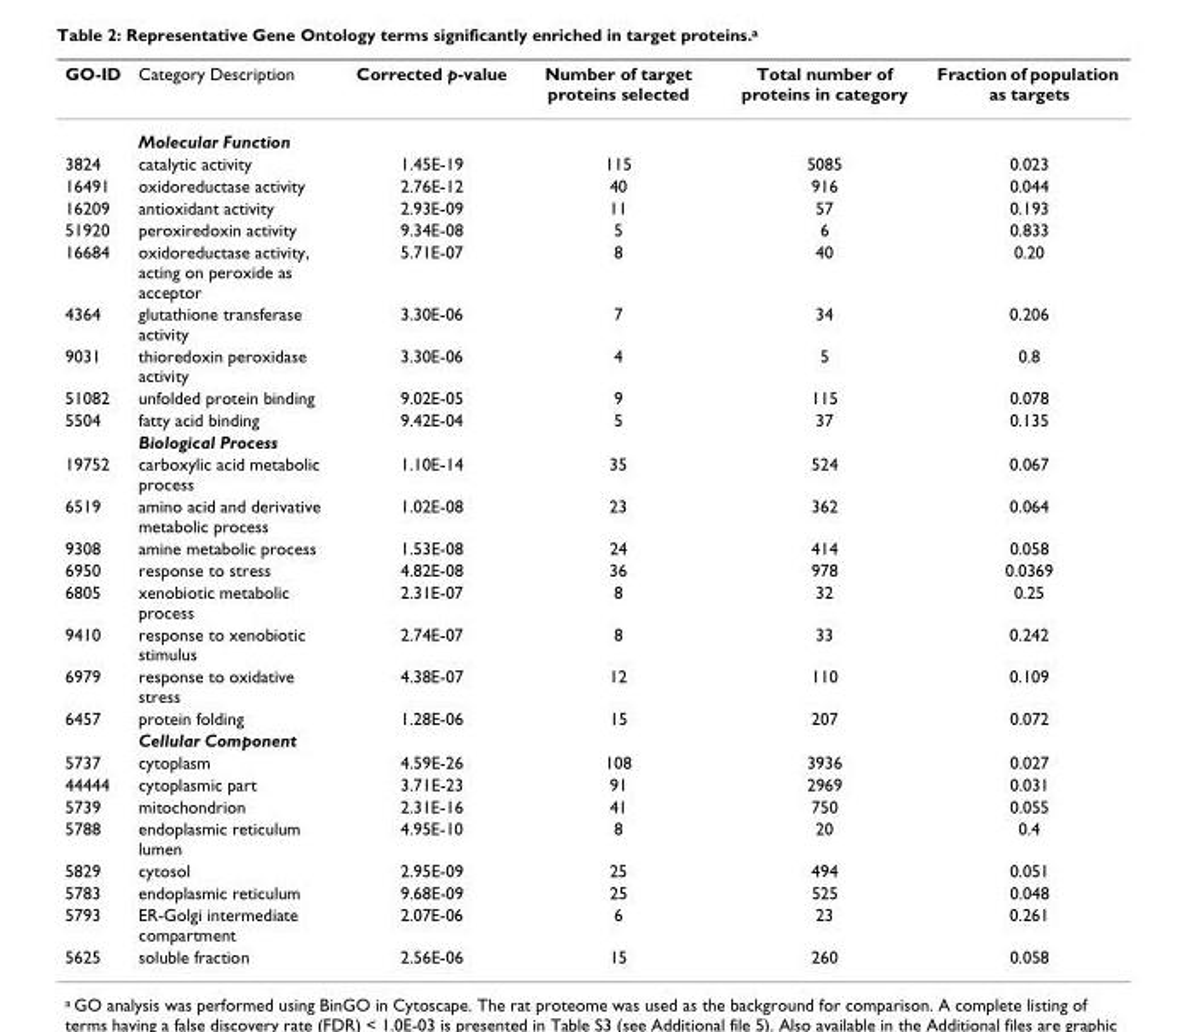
<table><thead><tr><td>GO-ID</td><td>Category Description</td><td>Corrected p-value</td><td>Number of target proteins selected</td><td>Total number of proteins in category</td><td>Fraction of population as targets</td></tr></thead><tbody><tr><td></td><td>Molecular Function</td><td></td><td></td><td></td><td></td></tr><tr><td>3824</td><td>catalytic activity</td><td>1.45E-19</td><td>115</td><td>5085</td><td>0.023</td></tr><tr><td>16491</td><td>oxidoreductase activity</td><td>2.76E-12</td><td>40</td><td>916</td><td>0.044</td></tr><tr><td>16209</td><td>antioxidant activity</td><td>2.93E-09</td><td>11</td><td>57</td><td>0.193</td></tr><tr><td>51920</td><td>peroxiredoxin activity</td><td>9.34E-08</td><td>5</td><td>6</td><td>0.833</td></tr><tr><td>16684</td><td>oxidoreductase activity, acting on peroxide as acceptor</td><td>5.71E-07</td><td>8</td><td>40</td><td>0.20</td></tr><tr><td>4364</td><td>glutathione transferase activity</td><td>3.30E-06</td><td>7</td><td>34</td><td>0.206</td></tr><tr><td>9031</td><td>thioredoxin peroxidase activity</td><td>3.30E-06</td><td>4</td><td>5</td><td>0.8</td></tr><tr><td>51082</td><td>unfolded protein binding</td><td>9.02E-05</td><td>9</td><td>115</td><td>0.078</td></tr><tr><td rowspan="2">5504</td><td>fatty acid binding</td><td>9.42E-04</td><td>5</td><td>37</td><td>0.135</td></tr><tr><td>Biological Process</td><td></td><td></td><td></td><td></td></tr><tr><td>19752</td><td>carboxylic acid metabolic process</td><td>1.10E-14</td><td>35</td><td>524</td><td>0.067</td></tr><tr><td>6519</td><td>amino acid and derivative metabolic process</td><td>1.02E-08</td><td>23</td><td>362</td><td>0.064</td></tr><tr><td>9308</td><td>amine metabolic process</td><td>1.53E-08</td><td>24</td><td>414</td><td>0.058</td></tr><tr><td>6950</td><td>response to stress</td><td>4.82E-08</td><td>36</td><td>978</td><td>0.0369</td></tr><tr><td>6805</td><td>xenobiotic metabolic process</td><td>2.31E-07</td><td>8</td><td>32</td><td>0.25</td></tr><tr><td>9410</td><td>response to xenobiotic stimulus</td><td>2.74E-07</td><td>8</td><td>33</td><td>0.242</td></tr><tr><td>6979</td><td>response to oxidative stress</td><td>4.38E-07</td><td>12</td><td>110</td><td>0.109</td></tr><tr><td rowspan="2">6457</td><td>protein folding</td><td>1.28E-06</td><td>15</td><td>207</td><td>0.072</td></tr><tr><td>Cellular Component</td><td></td><td></td><td></td><td></td></tr><tr><td>5737</td><td>cytoplasm</td><td>4.59E-26</td><td>108</td><td>3936</td><td>0.027</td></tr><tr><td>44444</td><td>cytoplasmic part</td><td>3.71E-23</td><td>91</td><td>2969</td><td>0.031</td></tr><tr><td>5739</td><td>mitochondrion</td><td>2.31E-16</td><td>41</td><td>750</td><td>0.055</td></tr><tr><td>5788</td><td>endoplasmic reticulum lumen</td><td>4.95E-10</td><td>8</td><td>20</td><td>0.4</td></tr><tr><td>5829</td><td>cytosol</td><td>2.95E-09</td><td>25</td><td>494</td><td>0.051</td></tr><tr><td>5783</td><td>endoplasmic reticulum</td><td>9.68E-09</td><td>25</td><td>525</td><td>0.048</td></tr><tr><td>5793</td><td>ER-Golgi intermediate compartment</td><td>2.07E-06</td><td>6</td><td>23</td><td>0.261</td></tr><tr><td>5625</td><td>soluble fraction</td><td>2.56E-06</td><td>15</td><td>260</td><td>0.058</td></tr></tbody></table>